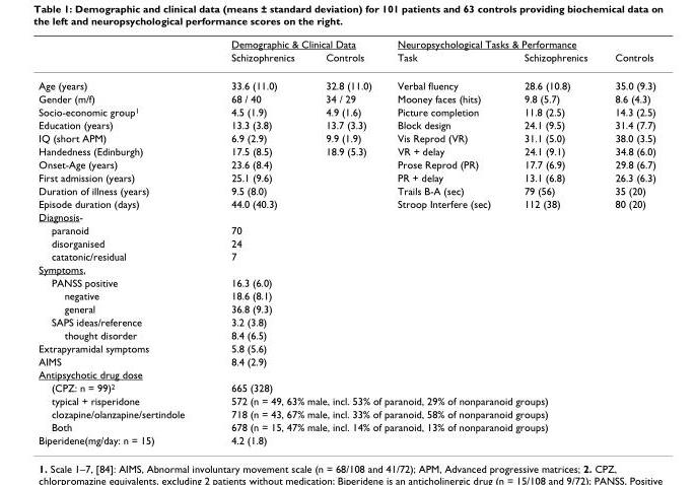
<table><thead><tr><td rowspan="2"></td><td colspan="2">Demographic &amp; Clinical Data</td><td colspan="3">Neuropsychological Tasks &amp; Performance</td></tr><tr><td>Schizophrenics</td><td>Controls</td><td>Task</td><td>Schizophrenics</td><td>Controls</td></tr></thead><tbody><tr><td>Age (years)</td><td>33.6 (11.0)</td><td>32.8 (11.0)</td><td>Verbal fluency</td><td>28.6 (10.8)</td><td>35.0 (9.3)</td></tr><tr><td>Gender (m/f)</td><td>68 / 40</td><td>34 / 29</td><td>Mooney faces (hits)</td><td>9.8 (5.7)</td><td>8.6 (4.3)</td></tr><tr><td>Socio-economic group<sup>1</sup></td><td>4.5 (1.9)</td><td>4.9 (1.6)</td><td>Picture completion</td><td>11.8 (2.5)</td><td>14.3 (2.5)</td></tr><tr><td>Education (years)</td><td>13.3 (3.8)</td><td>13.7 (3.3)</td><td>Block design</td><td>24.1 (9.5)</td><td>31.4 (7.7)</td></tr><tr><td>IQ (short APM)</td><td>6.9 (2.9)</td><td>9.9 (1.9)</td><td>Vis Reprod (VR)</td><td>31.1 (5.0)</td><td>38.0 (3.5)</td></tr><tr><td>Handedness (Edinburgh)</td><td>17.5 (8.5)</td><td>18.9 (5.3)</td><td>VR + delay</td><td>24.1 (9.1)</td><td>34.8 (6.0)</td></tr><tr><td>Onset-Age (years)</td><td>23.6 (8.4)</td><td></td><td>Prose Reprod (PR)</td><td>17.7 (6.9)</td><td>29.8 (6.7)</td></tr><tr><td>First admission (years)</td><td>25.1 (9.6)</td><td></td><td>PR + delay</td><td>13.1 (6.8)</td><td>26.3 (6.3)</td></tr><tr><td>Duration of illness (years)</td><td>9.5 (8.0)</td><td></td><td>Trails B-A (sec)</td><td>79 (56)</td><td>35 (20)</td></tr><tr><td>Episode duration (days)</td><td>44.0 (40.3)</td><td></td><td>Stroop Interfere (sec)</td><td>112 (38)</td><td>80 (20)</td></tr><tr><td colspan="6">Diagnosis-</td></tr><tr><td>paranoid</td><td>70</td><td></td><td></td><td></td><td></td></tr><tr><td>disorganised</td><td>24</td><td></td><td></td><td></td><td></td></tr><tr><td>catatonic/residual</td><td>7</td><td></td><td></td><td></td><td></td></tr><tr><td colspan="6">Symptoms,</td></tr><tr><td>PANSS positive</td><td>16.3 (6.0)</td><td></td><td></td><td></td><td></td></tr><tr><td>negative</td><td>18.6 (8.1)</td><td></td><td></td><td></td><td></td></tr><tr><td>general</td><td>36.8 (9.3)</td><td></td><td></td><td></td><td></td></tr><tr><td>SAPS ideas/reference</td><td>3.2 (3.8)</td><td></td><td></td><td></td><td></td></tr><tr><td>thought disorder</td><td>8.4 (6.5)</td><td></td><td></td><td></td><td></td></tr><tr><td>Extrapyramidal symptoms</td><td>5.8 (5.6)</td><td></td><td></td><td></td><td></td></tr><tr><td>AIMS</td><td>8.4 (2.9)</td><td></td><td></td><td></td><td></td></tr><tr><td colspan="6">Antipsychotic drug dose</td></tr><tr><td>(CPZ: n = 99)<sup>2</sup></td><td>665 (328)</td><td></td><td></td><td></td><td></td></tr><tr><td>typical + risperidone</td><td colspan="5">572 (n = 49, 63% male, incl. 53% of paranoid, 29% of nonparanoid groups)</td></tr><tr><td>clozapine/olanzapine/sertindole</td><td colspan="5">718 (n = 43, 67% male, incl. 33% of paranoid, 58% of nonparanoid groups)</td></tr><tr><td>Both</td><td colspan="5">678 (n = 15, 47% male, incl. 14% of paranoid, 13% of nonparanoid groups)</td></tr><tr><td>Biperidene(mg/day: n = 15)</td><td>4.2 (1.8)</td><td></td><td></td><td></td><td></td></tr></tbody></table>